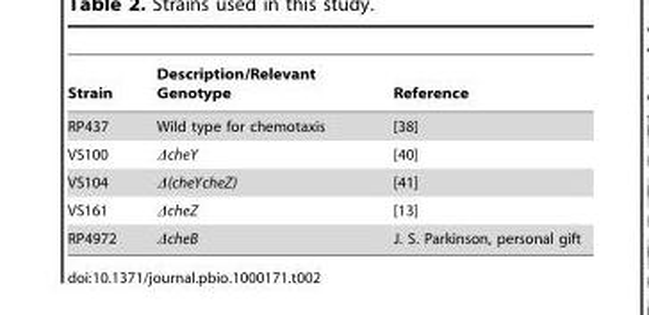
<table><thead><tr><td>Strain</td><td>Description/Relevant Genotype</td><td>Reference</td></tr></thead><tbody><tr><td>RP437</td><td>Wild type for chemotaxis</td><td>[38]</td></tr><tr><td>VS100</td><td>ΔcheY</td><td>[40]</td></tr><tr><td>VS104</td><td>Δ(cheYcheZ)</td><td>[41]</td></tr><tr><td>VS161</td><td>ΔcheZ</td><td>[13]</td></tr><tr><td>RP4972</td><td>ΔcheB</td><td>J. S. Parkinson, personal gift</td></tr></tbody></table>